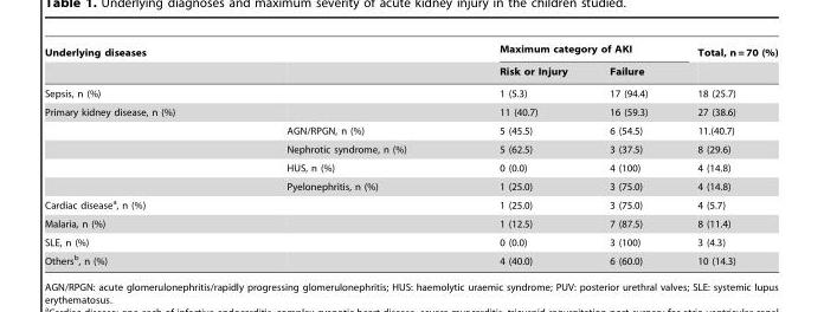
<table><thead><tr><td rowspan="2">Underlying diseases</td><td rowspan="2"></td><td colspan="2">Maximum category of AKI</td><td rowspan="2">Total, n = 70 (%)</td></tr><tr><td>Risk or Injury</td><td>Failure</td></tr></thead><tbody><tr><td>Sepsis, n (%)</td><td></td><td>1 (5.3)</td><td>17 (94.4)</td><td>18 (25.7)</td></tr><tr><td rowspan="5">Primary kidney disease, n (%)</td><td></td><td>11 (40.7)</td><td>16 (59.3)</td><td>27 (38.6)</td></tr><tr><td>AGN/RPGN, n (%)</td><td>5 (45.5)</td><td>6 (54.5)</td><td>11.(40.7)</td></tr><tr><td>Nephrotic syndrome, n (%)</td><td>5 (62.5)</td><td>3 (37.5)</td><td>8 (29.6)</td></tr><tr><td>HUS, n (%)</td><td>0 (0.0)</td><td>4 (100)</td><td>4 (14.8)</td></tr><tr><td>Pyelonephritis, n (%)</td><td>1 (25.0)</td><td>3 (75.0)</td><td>4 (14.8)</td></tr><tr><td>Cardiac disease<sup>a</sup>, n (%)</td><td></td><td>1 (25.0)</td><td>3 (75.0)</td><td>4 (5.7)</td></tr><tr><td>Malaria, n (%)</td><td></td><td>1 (12.5)</td><td>7 (87.5)</td><td>8 (11.4)</td></tr><tr><td>SLE, n (%)</td><td></td><td>0 (0.0)</td><td>3 (100)</td><td>3 (4.3)</td></tr><tr><td>Others<sup>b</sup>, n (%)</td><td></td><td>4 (40.0)</td><td>6 (60.0)</td><td>10 (14.3)</td></tr></tbody></table>